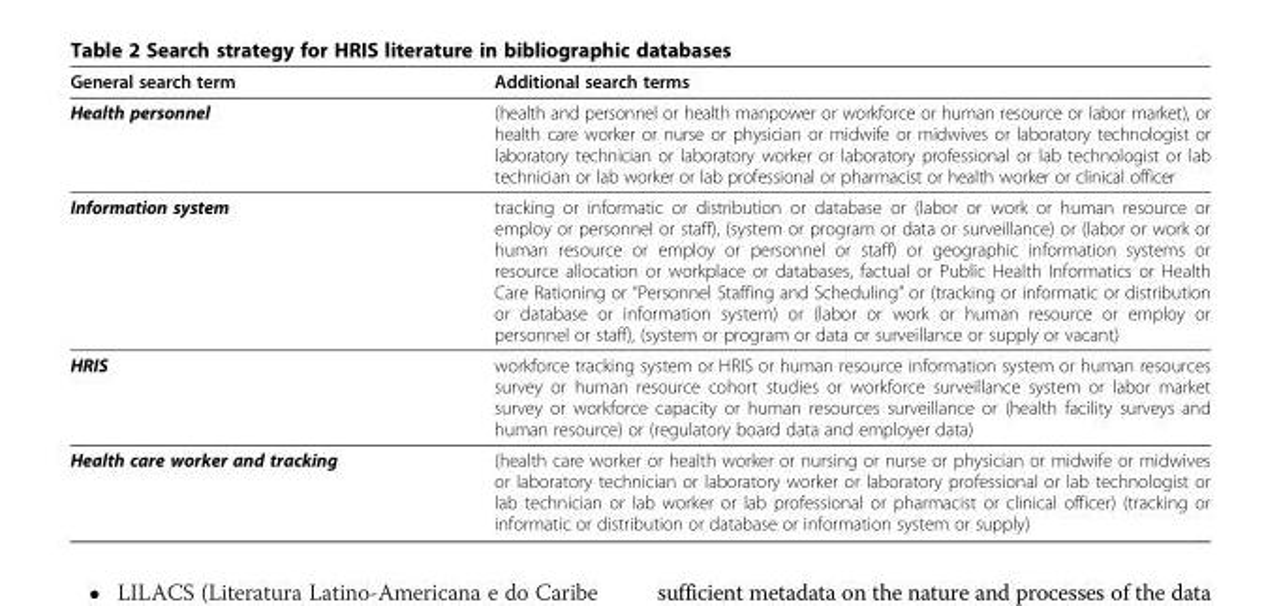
<table><thead><tr><td>General search term</td><td>Additional search terms</td></tr></thead><tbody><tr><td>Health personnel</td><td>(health and personnel or health manpower or workforce or human resource or labor market), or health care worker or nurse or physician or midwife or midwives or laboratory technologist or laboratory technician or laboratory worker or laboratory professional or lab technologist or lab technician or lab worker or lab professional or pharmacist or health worker or clinical officer</td></tr><tr><td>Information system</td><td>tracking or informatic or distribution or database or (labor or work or human resource or employ or personnel or staff), (system or program or data or surveillance) or (labor or work or human resource or employ or personnel or staff) or geographic information systems or resource allocation or workplace or databases, factual or Public Health Informatics or Health Care Rationing or “Personnel Staffing and Scheduling” or (tracking or informatic or distribution or database or information system) or (labor or work or human resource or employ or personnel or staff), (system or program or data or surveillance or supply or vacant)</td></tr><tr><td>HRIS</td><td>workforce tracking system or HRIS or human resource information system or human resources survey or human resource cohort studies or workforce surveillance system or labor market survey or workforce capacity or human resources surveillance or (health facility surveys and human resource) or (regulatory board data and employer data)</td></tr><tr><td>Health care worker and tracking</td><td>(health care worker or health worker or nursing or nurse or physician or midwife or midwives or laboratory technician or laboratory worker or laboratory professional or lab technologist or lab technician or lab worker or lab professional or pharmacist or clinical officer) (tracking or informatic or distribution or database or information system or supply)</td></tr></tbody></table>